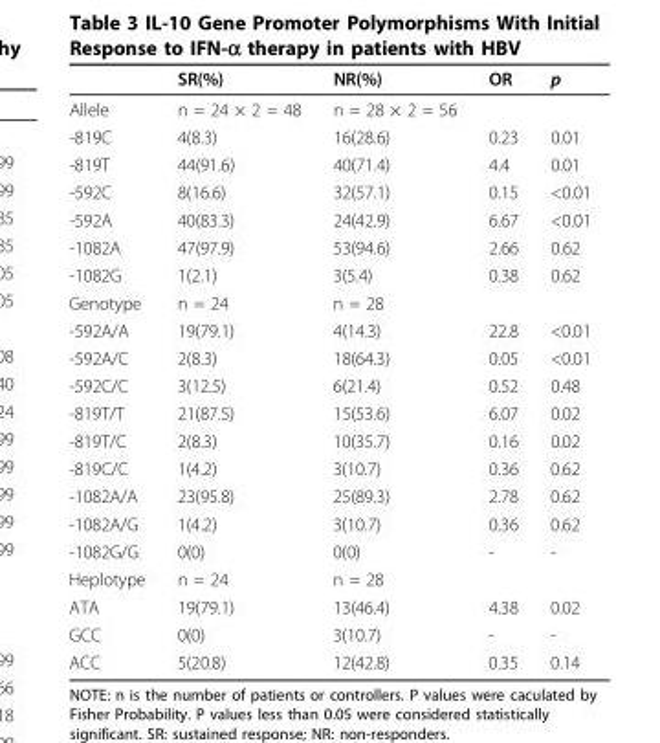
<table><thead><tr><td></td><td>SR(%)</td><td>NR(%)</td><td>OR</td><td>p</td></tr></thead><tbody><tr><td>Allele</td><td>n = 24 × 2 = 48</td><td>n = 28 × 2 = 56</td><td></td><td></td></tr><tr><td>-819C</td><td>4(8.3)</td><td>16(28.6)</td><td>0.23</td><td>0.01</td></tr><tr><td>-819T</td><td>44(91.6)</td><td>40(71.4)</td><td>4.4</td><td>0.01</td></tr><tr><td>-592C</td><td>8(16.6)</td><td>32(57.1)</td><td>0.15</td><td>&lt;0.01</td></tr><tr><td>-592A</td><td>40(83.3)</td><td>24(42.9)</td><td>6.67</td><td>&lt;0.01</td></tr><tr><td>-1082A</td><td>47(97.9)</td><td>53(94.6)</td><td>2.66</td><td>0.62</td></tr><tr><td>-1082G</td><td>1(2.1)</td><td>3(5.4)</td><td>0.38</td><td>0.62</td></tr><tr><td>Genotype</td><td>n = 24</td><td>n = 28</td><td></td><td></td></tr><tr><td>-592A/A</td><td>19(79.1)</td><td>4(14.3)</td><td>22.8</td><td>&lt;0.01</td></tr><tr><td>-592A/C</td><td>2(8.3)</td><td>18(64.3)</td><td>0.05</td><td>&lt;0.01</td></tr><tr><td>-592C/C</td><td>3(12.5)</td><td>6(21.4)</td><td>0.52</td><td>0.48</td></tr><tr><td>-819T/T</td><td>21(87.5)</td><td>15(53.6)</td><td>6.07</td><td>0.02</td></tr><tr><td>-819T/C</td><td>2(8.3)</td><td>10(35.7)</td><td>0.16</td><td>0.02</td></tr><tr><td>-819C/C</td><td>1(4.2)</td><td>3(10.7)</td><td>0.36</td><td>0.62</td></tr><tr><td>-1082A/A</td><td>23(95.8)</td><td>25(89.3)</td><td>2.78</td><td>0.62</td></tr><tr><td>-1082A/G</td><td>1(4.2)</td><td>3(10.7)</td><td>0.36</td><td>0.62</td></tr><tr><td>-1082G/G</td><td>0(0)</td><td>0(0)</td><td>-</td><td>-</td></tr><tr><td>Heplotype</td><td>n = 24</td><td>n = 28</td><td></td><td></td></tr><tr><td>ATA</td><td>19(79.1)</td><td>13(46.4)</td><td>4.38</td><td>0.02</td></tr><tr><td>GCC</td><td>0(0)</td><td>3(10.7)</td><td>-</td><td>-</td></tr><tr><td>ACC</td><td>5(20.8)</td><td>12(42.8)</td><td>0.35</td><td>0.14</td></tr></tbody></table>